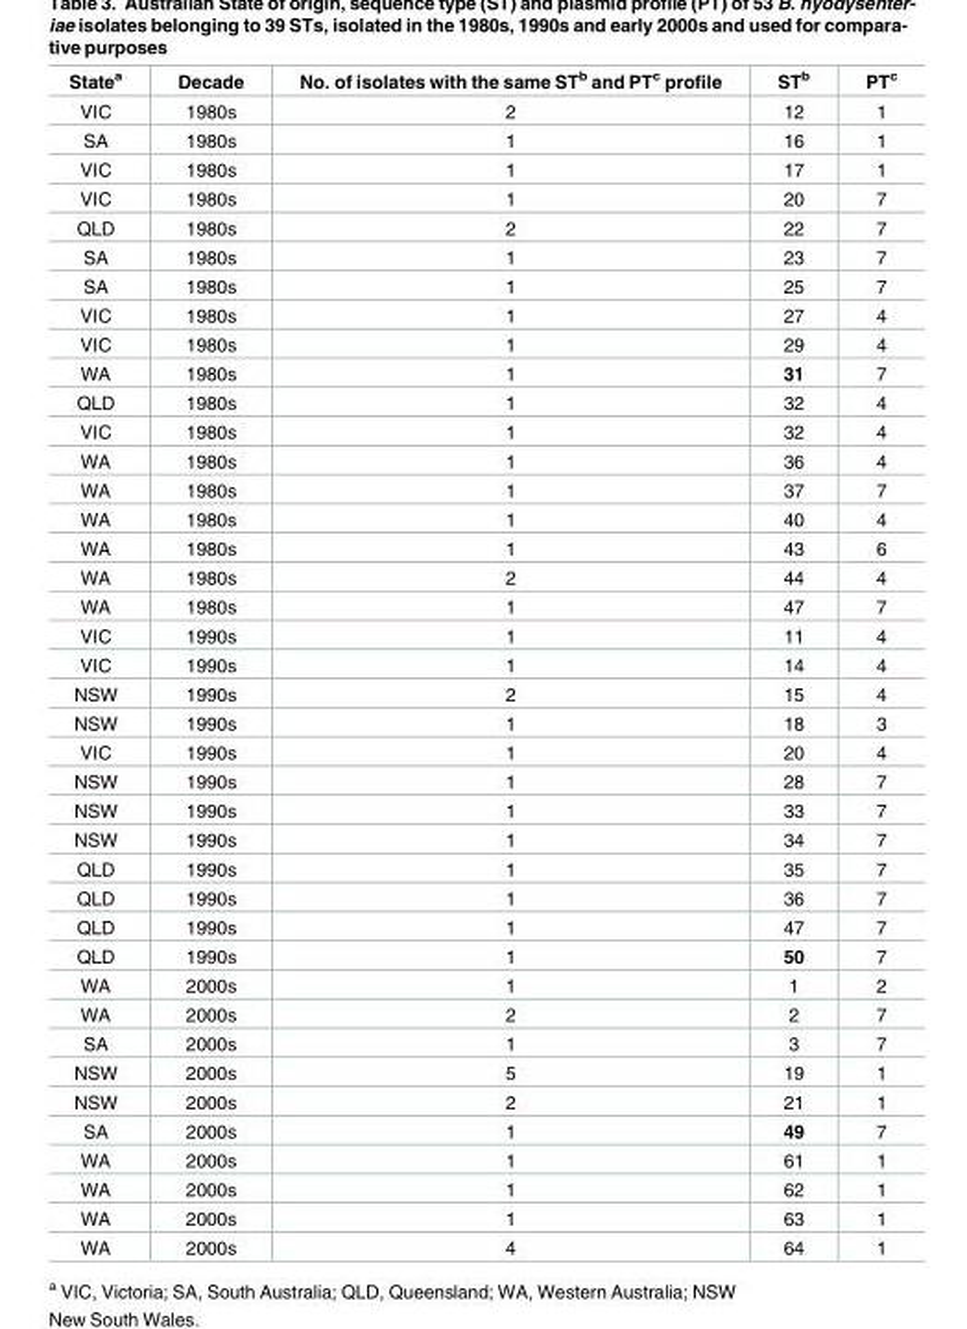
<table><thead><tr><td>State<sup>a</sup></td><td>Decade</td><td>No. of isolates with the same ST<sup>b</sup> and PT<sup>c</sup> profile</td><td>ST<sup>b</sup></td><td>PT<sup>c</sup></td></tr></thead><tbody><tr><td>VIC</td><td>1980s</td><td>2</td><td>12</td><td>1</td></tr><tr><td>SA</td><td>1980s</td><td>1</td><td>16</td><td>1</td></tr><tr><td>VIC</td><td>1980s</td><td>1</td><td>17</td><td>1</td></tr><tr><td>VIC</td><td>1980s</td><td>1</td><td>20</td><td>7</td></tr><tr><td>QLD</td><td>1980s</td><td>2</td><td>22</td><td>7</td></tr><tr><td>SA</td><td>1980s</td><td>1</td><td>23</td><td>7</td></tr><tr><td>SA</td><td>1980s</td><td>1</td><td>25</td><td>7</td></tr><tr><td>VIC</td><td>1980s</td><td>1</td><td>27</td><td>4</td></tr><tr><td>VIC</td><td>1980s</td><td>1</td><td>29</td><td>4</td></tr><tr><td>WA</td><td>1980s</td><td>1</td><td>31</td><td>7</td></tr><tr><td>QLD</td><td>1980s</td><td>1</td><td>32</td><td>4</td></tr><tr><td>VIC</td><td>1980s</td><td>1</td><td>32</td><td>4</td></tr><tr><td>WA</td><td>1980s</td><td>1</td><td>36</td><td>4</td></tr><tr><td>WA</td><td>1980s</td><td>1</td><td>37</td><td>7</td></tr><tr><td>WA</td><td>1980s</td><td>1</td><td>40</td><td>4</td></tr><tr><td>WA</td><td>1980s</td><td>1</td><td>43</td><td>6</td></tr><tr><td>WA</td><td>1980s</td><td>2</td><td>44</td><td>4</td></tr><tr><td>WA</td><td>1980s</td><td>1</td><td>47</td><td>7</td></tr><tr><td>VIC</td><td>1990s</td><td>1</td><td>11</td><td>4</td></tr><tr><td>VIC</td><td>1990s</td><td>1</td><td>14</td><td>4</td></tr><tr><td>NSW</td><td>1990s</td><td>2</td><td>15</td><td>4</td></tr><tr><td>NSW</td><td>1990s</td><td>1</td><td>18</td><td>3</td></tr><tr><td>VIC</td><td>1990s</td><td>1</td><td>20</td><td>4</td></tr><tr><td>NSW</td><td>1990s</td><td>1</td><td>28</td><td>7</td></tr><tr><td>NSW</td><td>1990s</td><td>1</td><td>33</td><td>7</td></tr><tr><td>NSW</td><td>1990s</td><td>1</td><td>34</td><td>7</td></tr><tr><td>QLD</td><td>1990s</td><td>1</td><td>35</td><td>7</td></tr><tr><td>QLD</td><td>1990s</td><td>1</td><td>36</td><td>7</td></tr><tr><td>QLD</td><td>1990s</td><td>1</td><td>47</td><td>7</td></tr><tr><td>QLD</td><td>1990s</td><td>1</td><td>50</td><td>7</td></tr><tr><td>WA</td><td>2000s</td><td>1</td><td>1</td><td>2</td></tr><tr><td>WA</td><td>2000s</td><td>2</td><td>2</td><td>7</td></tr><tr><td>SA</td><td>2000s</td><td>1</td><td>3</td><td>7</td></tr><tr><td>NSW</td><td>2000s</td><td>5</td><td>19</td><td>1</td></tr><tr><td>NSW</td><td>2000s</td><td>2</td><td>21</td><td>1</td></tr><tr><td>SA</td><td>2000s</td><td>1</td><td>49</td><td>7</td></tr><tr><td>WA</td><td>2000s</td><td>1</td><td>61</td><td>1</td></tr><tr><td>WA</td><td>2000s</td><td>1</td><td>62</td><td>1</td></tr><tr><td>WA</td><td>2000s</td><td>1</td><td>63</td><td>1</td></tr><tr><td>WA</td><td>2000s</td><td>4</td><td>64</td><td>1</td></tr></tbody></table>